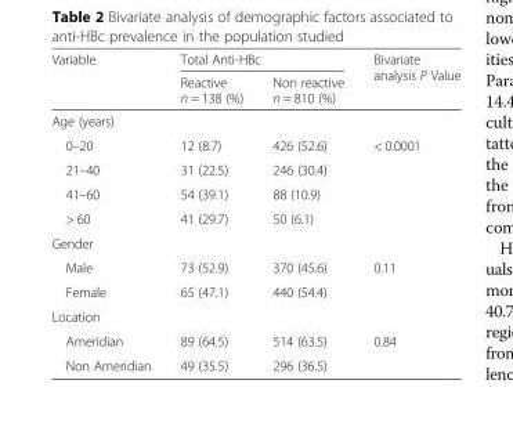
<table><thead><tr><td rowspan="2">Variable</td><td colspan="2">Total Anti-HBc</td><td rowspan="2">Bivariate analysis P Value</td></tr><tr><td>Reactive n = 138 (%)</td><td>Non reactive n = 810 (%)</td></tr></thead><tbody><tr><td colspan="4">Age (years)</td></tr><tr><td>0–20</td><td>12 (8.7)</td><td>426 (52.6)</td><td rowspan="4">&lt; 0.0001</td></tr><tr><td>21–40</td><td>31 (22.5)</td><td>246 (30.4)</td></tr><tr><td>41–60</td><td>54 (39.1)</td><td>88 (10.9)</td></tr><tr><td>&gt; 60</td><td>41 (29.7)</td><td>50 (6.1)</td></tr><tr><td colspan="4">Gender</td></tr><tr><td>Male</td><td>73 (52.9)</td><td>370 (45.6)</td><td rowspan="2">0.11</td></tr><tr><td>Female</td><td>65 (47.1)</td><td>440 (54.4)</td></tr><tr><td colspan="4">Location</td></tr><tr><td>Ameridian</td><td>89 (64.5)</td><td>514 (63.5)</td><td rowspan="2">0.84</td></tr><tr><td>Non Ameridian</td><td>49 (35.5)</td><td>296 (36.5)</td></tr></tbody></table>